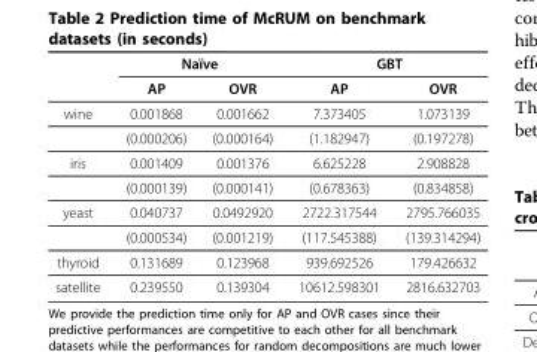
<table><thead><tr><td rowspan="2"></td><td colspan="2">Naïve</td><td colspan="2">GBT</td></tr><tr><td>AP</td><td>OVR</td><td>AP</td><td>OVR</td></tr></thead><tbody><tr><td rowspan="2">wine</td><td>0.001868</td><td>0.001662</td><td>7.373405</td><td>1.073139</td></tr><tr><td>(0.000206)</td><td>(0.000164)</td><td>(1.182947)</td><td>(0.197278)</td></tr><tr><td rowspan="2">iris</td><td>0.001409</td><td>0.001376</td><td>6.625228</td><td>2.908828</td></tr><tr><td>(0.000139)</td><td>(0.000141)</td><td>(0.678363)</td><td>(0.834858)</td></tr><tr><td rowspan="2">yeast</td><td>0.040737</td><td>0.0492920</td><td>2722.317544</td><td>2795.766035</td></tr><tr><td>(0.000534)</td><td>(0.001219)</td><td>(117.545388)</td><td>(139.314294)</td></tr><tr><td>thyroid</td><td>0.131689</td><td>0.123968</td><td>939.692526</td><td>179.426632</td></tr><tr><td>satellite</td><td>0.239550</td><td>0.139304</td><td>10612.598301</td><td>2816.632703</td></tr></tbody></table>